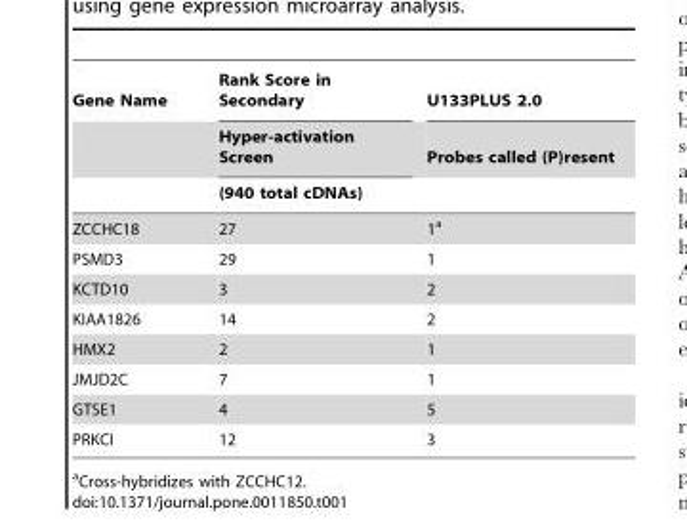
<table><thead><tr><td rowspan="3">Gene Name</td><td rowspan="3">Rank Score in Secondary Hyper-activation Screen (940 total cDNAs)</td><td rowspan="3">U133PLUS 2.0 Probes called (P)resent</td></tr><tr></tr><tr></tr></thead><tbody><tr><td>ZCCHC18</td><td>27</td><td>1<sup>a</sup></td></tr><tr><td>PSMD3</td><td>29</td><td>1</td></tr><tr><td>KCTD10</td><td>3</td><td>2</td></tr><tr><td>KIAA1826</td><td>14</td><td>2</td></tr><tr><td>HMX2</td><td>2</td><td>1</td></tr><tr><td>JMJD2C</td><td>7</td><td>1</td></tr><tr><td>GTSE1</td><td>4</td><td>5</td></tr><tr><td>PRKCI</td><td>12</td><td>3</td></tr></tbody></table>